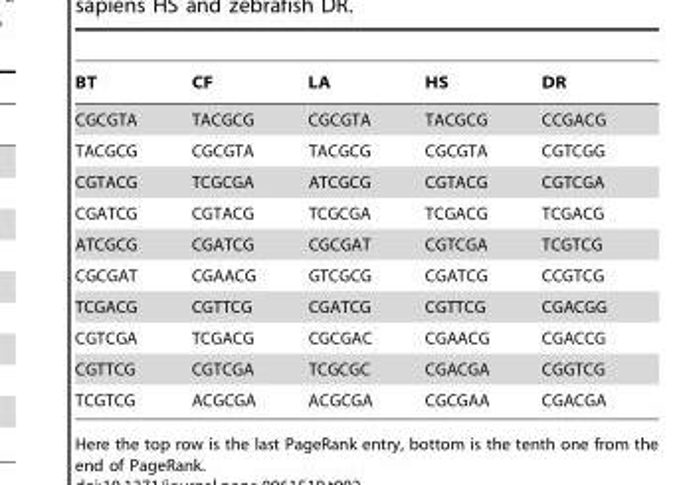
<table><thead><tr><td>BT</td><td>CF</td><td>LA</td><td>HS</td><td>DR</td></tr></thead><tbody><tr><td>CGCGTA</td><td>TACGCG</td><td>CGCGTA</td><td>TACGCG</td><td>CCGACG</td></tr><tr><td>TACGCG</td><td>CGCGTA</td><td>TACGCG</td><td>CGCGTA</td><td>CGTCGG</td></tr><tr><td>CGTACG</td><td>TCGCGA</td><td>ATCGCG</td><td>CGTACG</td><td>CGTCGA</td></tr><tr><td>CGATCG</td><td>CGTACG</td><td>TCGCGA</td><td>TCGACG</td><td>TCGACG</td></tr><tr><td>ATCGCG</td><td>CGATCG</td><td>CGCGAT</td><td>CGTCGA</td><td>TCGTCG</td></tr><tr><td>CGCGAT</td><td>CGAACG</td><td>GTCGCG</td><td>CGATCG</td><td>CCGTCG</td></tr><tr><td>TCGACG</td><td>CGTTCG</td><td>CGATCG</td><td>CGTTCG</td><td>CGACGG</td></tr><tr><td>CGTCGA</td><td>TCGACG</td><td>CGCGAC</td><td>CGAACG</td><td>CGACCG</td></tr><tr><td>CGTTCG</td><td>CGTCGA</td><td>TCGCGC</td><td>CGACGA</td><td>CGGTCG</td></tr><tr><td>TCGTCG</td><td>ACGCGA</td><td>ACGCGA</td><td>CGCGAA</td><td>CGACGA</td></tr></tbody></table>